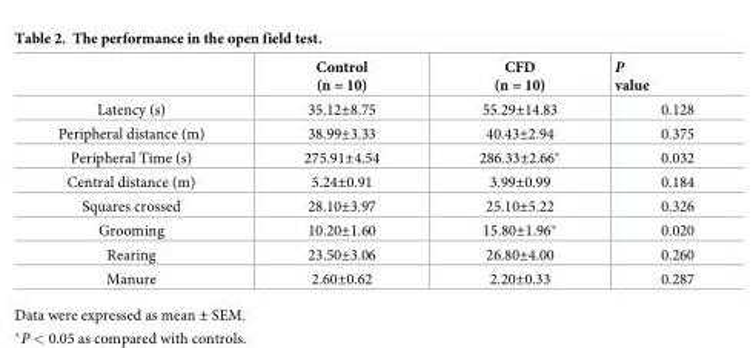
<table><thead><tr><td></td><td>Control (n = 10)</td><td>CFD (n = 10)</td><td>P value</td></tr></thead><tbody><tr><td>Latency (s)</td><td>35.12±8.75</td><td>55.29±14.83</td><td>0.128</td></tr><tr><td>Peripheral distance (m)</td><td>38.99±3.33</td><td>40.43±2.94</td><td>0.375</td></tr><tr><td>Peripheral Time (s)</td><td>275.91±4.54</td><td>286.33±2.66*</td><td>0.032</td></tr><tr><td>Central distance (m)</td><td>5.24±0.91</td><td>3.99±0.99</td><td>0.184</td></tr><tr><td>Squares crossed</td><td>28.10±3.97</td><td>25.10±5.22</td><td>0.326</td></tr><tr><td>Grooming</td><td>10.20±1.60</td><td>15.80±1.96*</td><td>0.020</td></tr><tr><td>Rearing</td><td>23.50±3.06</td><td>26.80±4.00</td><td>0.260</td></tr><tr><td>Manure</td><td>2.60±0.62</td><td>2.20±0.33</td><td>0.287</td></tr></tbody></table>